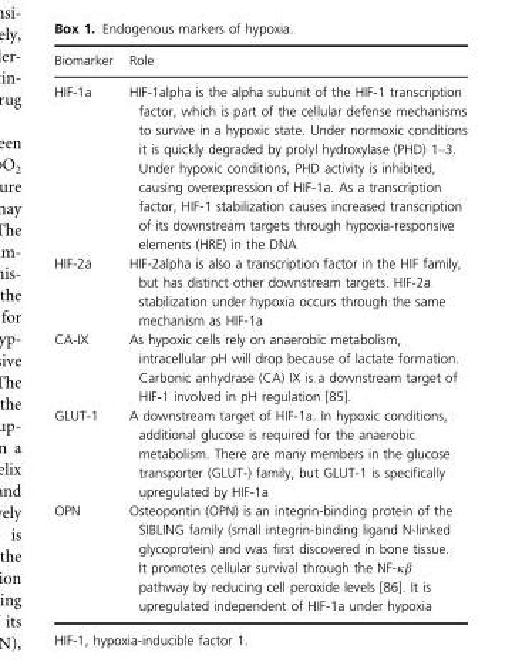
<table><thead><tr><td>Biomarker</td><td>Role</td></tr></thead><tbody><tr><td>HIF-1a</td><td>HIF-1alpha is the alpha subunit of the HIF-1 transcription factor, which is part of the cellular defense mechanisms to survive in a hypoxic state. Under normoxic conditions it is quickly degraded by prolyl hydroxylase (PHD) 1–3. Under hypoxic conditions, PHD activity is inhibited, causing overexpression of HIF-1a. As a transcription factor, HIF-1 stabilization causes increased transcription of its downstream targets through hypoxia-responsive elements (HRE) in the DNA</td></tr><tr><td>HIF-2a</td><td>HIF-2alpha is also a transcription factor in the HIF family, but has distinct other downstream targets. HIF-2a stabilization under hypoxia occurs through the same mechanism as HIF-1a</td></tr><tr><td>CA-IX</td><td>As hypoxic cells rely on anaerobic metabolism, intracellular pH will drop because of lactate formation. Carbonic anhydrase (CA) IX is a downstream target of HIF-1 involved in pH regulation [85].</td></tr><tr><td>GLUT-1</td><td>A downstream target of HIF-1a. In hypoxic conditions, additional glucose is required for the anaerobic metabolism. There are many members in the glucose transporter (GLUT-) family, but GLUT-1 is specifically upregulated by HIF-1a</td></tr><tr><td>OPN</td><td>Osteopontin (OPN) is an integrin-binding protein of the SIBLING family (small integrin-binding ligand N-linked glycoprotein) and was first discovered in bone tissue. It promotes cellular survival through the NF-jb pathway by reducing cell peroxide levels [86]. It is upregulated independent of HIF-1a under hypoxia</td></tr></tbody></table>